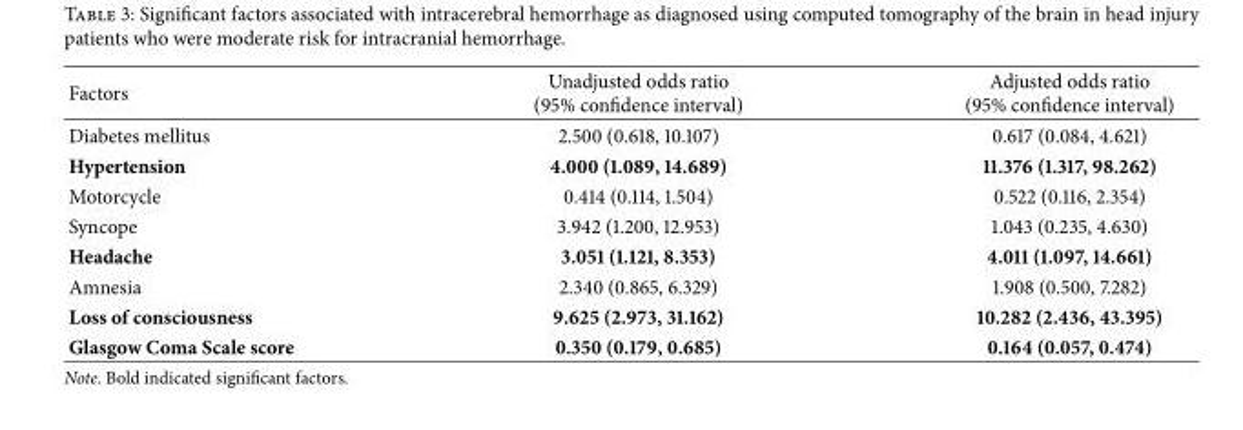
<table><thead><tr><td>Factors</td><td>Unadjusted odds ratio (95% confidence interval)</td><td>Adjusted odds ratio (95% confidence interval)</td></tr></thead><tbody><tr><td>Diabetes mellitus</td><td>2.500 (0.618, 10.107)</td><td>0.617 (0.084, 4.621)</td></tr><tr><td>Hypertension</td><td>4.000 (1.089, 14.689)</td><td>11.376 (1.317, 98.262)</td></tr><tr><td>Motorcycle</td><td>0.414 (0.114, 1.504)</td><td>0.522 (0.116, 2.354)</td></tr><tr><td>Syncope</td><td>3.942 (1.200, 12.953)</td><td>1.043 (0.235, 4.630)</td></tr><tr><td>Headache</td><td>3.051 (1.121, 8.353)</td><td>4.011 (1.097, 14.661)</td></tr><tr><td>Amnesia</td><td>2.340 (0.865, 6.329)</td><td>1.908 (0.500, 7.282)</td></tr><tr><td>Loss of consciousness</td><td>9.625 (2.973, 31.162)</td><td>10.282 (2.436, 43.395)</td></tr><tr><td>Glasgow Coma Scale score</td><td>0.350 (0.179, 0.685)</td><td>0.164 (0.057, 0.474)</td></tr></tbody></table>